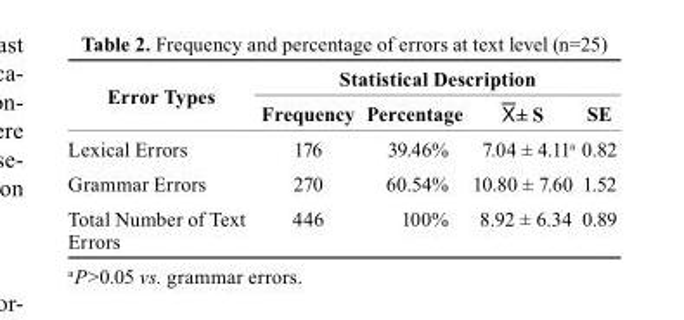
<table><thead><tr><td rowspan="2">Error types</td><td colspan="4">statistical Description</td></tr><tr><td>Frequency</td><td>Percentage</td><td>X± s</td><td>sE</td></tr></thead><tbody><tr><td>Lexical Errors</td><td>176</td><td>39.46%</td><td>7.04 ± 4.11<sup>a</sup></td><td>0.82</td></tr><tr><td>Grammar Errors</td><td>270</td><td>60.54%</td><td>10.80 ± 7.60</td><td>1.52</td></tr><tr><td>Total Number of Text Errors</td><td>446</td><td>100%</td><td>8.92 ± 6.34</td><td>0.89</td></tr></tbody></table>